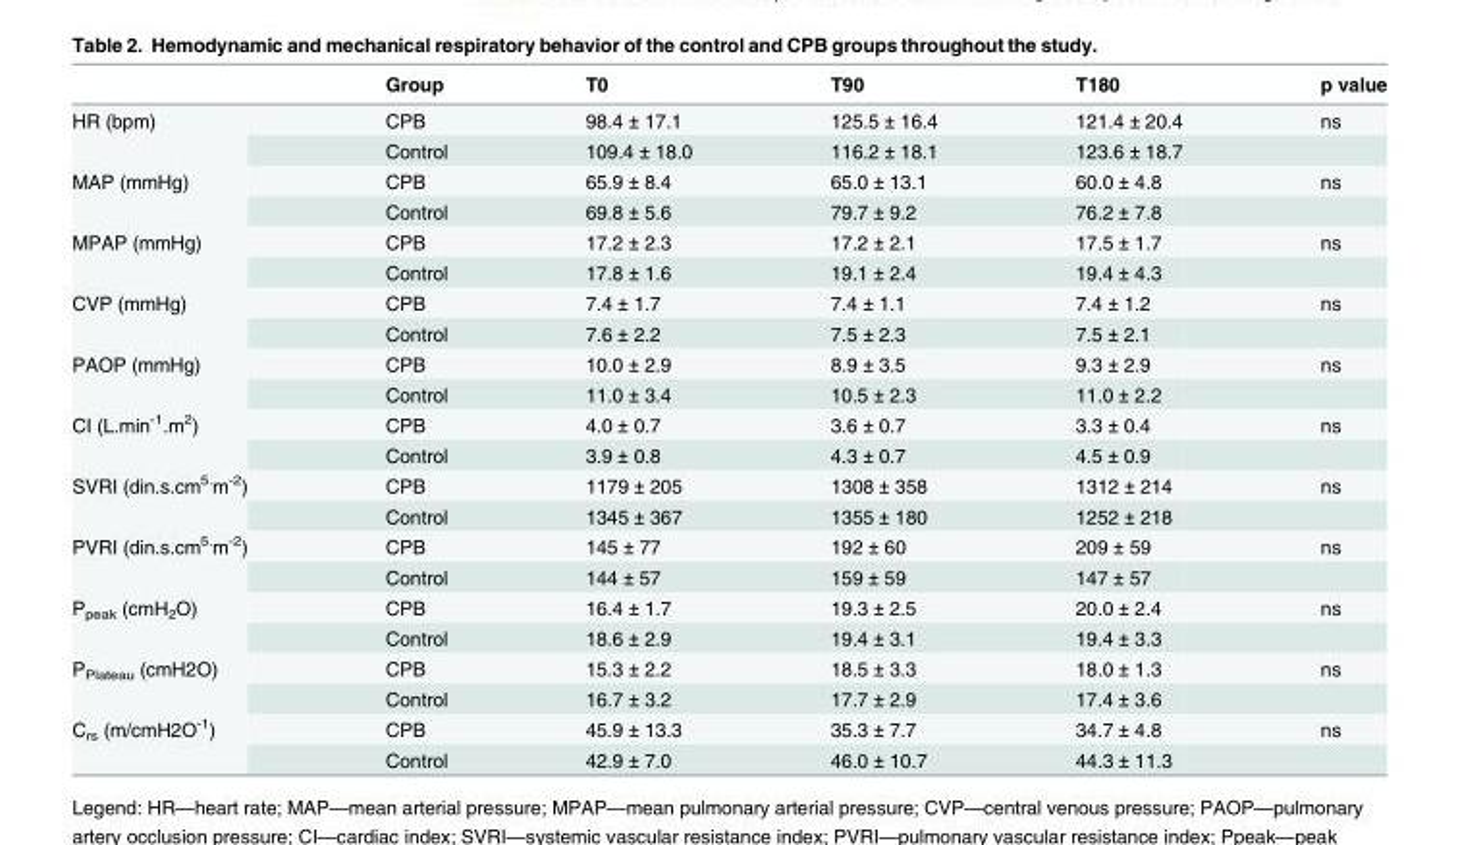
<table><thead><tr><td></td><td>Group</td><td>T0</td><td>T90</td><td>T180</td><td>p value</td></tr></thead><tbody><tr><td rowspan="2">HR (bpm)</td><td>CPB</td><td>98.4 ± 17.1</td><td>125.5 ± 16.4</td><td>121.4 ± 20.4</td><td>ns</td></tr><tr><td>Control</td><td>109.4 ± 18.0</td><td>116.2 ± 18.1</td><td>123.6 ± 18.7</td><td></td></tr><tr><td rowspan="2">MAP (mmHg)</td><td>CPB</td><td>65.9 ± 8.4</td><td>65.0 ± 13.1</td><td>60.0 ± 4.8</td><td>ns</td></tr><tr><td>Control</td><td>69.8 ± 5.6</td><td>79.7 ± 9.2</td><td>76.2 ± 7.8</td><td></td></tr><tr><td rowspan="2">MPAP (mmHg)</td><td>CPB</td><td>17.2 ± 2.3</td><td>17.2 ± 2.1</td><td>17.5 ± 1.7</td><td>ns</td></tr><tr><td>Control</td><td>17.8 ± 1.6</td><td>19.1 ± 2.4</td><td>19.4 ± 4.3</td><td></td></tr><tr><td rowspan="2">CVP (mmHg)</td><td>CPB</td><td>7.4 ± 1.7</td><td>7.4 ± 1.1</td><td>7.4 ± 1.2</td><td>ns</td></tr><tr><td>Control</td><td>7.6 ± 2.2</td><td>7.5 ± 2.3</td><td>7.5 ± 2.1</td><td></td></tr><tr><td rowspan="2">PAOP (mmHg)</td><td>CPB</td><td>10.0 ± 2.9</td><td>8.9 ± 3.5</td><td>9.3 ± 2.9</td><td>ns</td></tr><tr><td>Control</td><td>11.0 ± 3.4</td><td>10.5 ± 2.3</td><td>11.0 ± 2.2</td><td></td></tr><tr><td rowspan="2">CI (L.min<sup>-1</sup>.m<sup>2</sup>)</td><td>CPB</td><td>4.0 ± 0.7</td><td>3.6 ± 0.7</td><td>3.3 ± 0.4</td><td>ns</td></tr><tr><td>Control</td><td>3.9 ± 0.8</td><td>4.3 ± 0.7</td><td>4.5 ± 0.9</td><td></td></tr><tr><td rowspan="2">SVRI (din.s.cm<sup>5.</sup>m<sup>-2</sup>)</td><td>CPB</td><td>1179 ± 205</td><td>1308 ± 358</td><td>1312 ± 214</td><td>ns</td></tr><tr><td>Control</td><td>1345 ± 367</td><td>1355 ± 180</td><td>1252 ± 218</td><td></td></tr><tr><td rowspan="2">PVRI (din.s.cm<sup>5.</sup>m<sup>-2</sup>)</td><td>CPB</td><td>145 ± 77</td><td>192 ± 60</td><td>209 ± 59</td><td>ns</td></tr><tr><td>Control</td><td>144 ± 57</td><td>159 ± 59</td><td>147 ± 57</td><td></td></tr><tr><td rowspan="2">P<sub>peak</sub> (cmH<sub>2</sub>O)</td><td>CPB</td><td>16.4 ± 1.7</td><td>19.3 ± 2.5</td><td>20.0 ± 2.4</td><td>ns</td></tr><tr><td>Control</td><td>18.6 ± 2.9</td><td>19.4 ± 3.1</td><td>19.4 ± 3.3</td><td></td></tr><tr><td rowspan="2">P<sub>Plateau</sub> (cmH2O)</td><td>CPB</td><td>15.3 ± 2.2</td><td>18.5 ± 3.3</td><td>18.0 ± 1.3</td><td>ns</td></tr><tr><td>Control</td><td>16.7 ± 3.2</td><td>17.7 ± 2.9</td><td>17.4 ± 3.6</td><td></td></tr><tr><td rowspan="2">C<sub>rs</sub> (m/cmH2O<sup>-1</sup>)</td><td>CPB</td><td>45.9 ± 13.3</td><td>35.3 ± 7.7</td><td>34.7 ± 4.8</td><td>ns</td></tr><tr><td>Control</td><td>42.9 ± 7.0</td><td>46.0 ± 10.7</td><td>44.3 ± 11.3</td><td></td></tr></tbody></table>